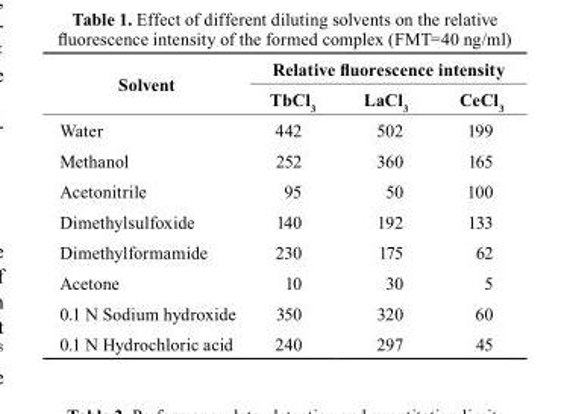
<table><thead><tr><td rowspan="2">solvent</td><td colspan="3">relative fluorescence intensity</td></tr><tr><td>TbCl<sub>3</sub></td><td>LaCl<sub>3</sub></td><td>cecl<sub>3</sub></td></tr></thead><tbody><tr><td>Water</td><td>442</td><td>502</td><td>199</td></tr><tr><td>Methanol</td><td>252</td><td>360</td><td>165</td></tr><tr><td>Acetonitrile</td><td>95</td><td>50</td><td>100</td></tr><tr><td>Dimethylsulfoxide</td><td>140</td><td>192</td><td>133</td></tr><tr><td>Dimethylformamide</td><td>230</td><td>175</td><td>62</td></tr><tr><td>Acetone</td><td>10</td><td>30</td><td>5</td></tr><tr><td>0.1 N Sodium hydroxide</td><td>350</td><td>320</td><td>60</td></tr><tr><td>0.1 N Hydrochloric acid</td><td>240</td><td>297</td><td>45</td></tr></tbody></table>